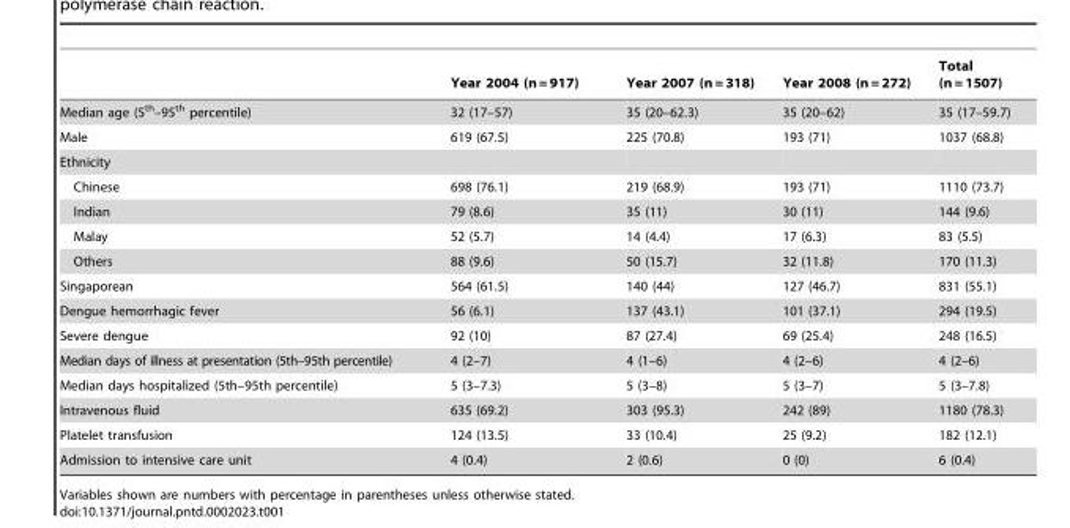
<table><thead><tr><td></td><td>Year 2004 (n = 917)</td><td>Year 2007 (n = 318)</td><td>Year 2008 (n = 272)</td><td>Total (n = 1507)</td></tr></thead><tbody><tr><td>Median age (5<sup>th</sup>–95<sup>th</sup> percentile)</td><td>32 (17–57)</td><td>35 (20–62.3)</td><td>35 (20–62)</td><td>35 (17–59.7)</td></tr><tr><td>Male</td><td>619 (67.5)</td><td>225 (70.8)</td><td>193 (71)</td><td>1037 (68.8)</td></tr><tr><td colspan="5">Ethnicity</td></tr><tr><td>Chinese</td><td>698 (76.1)</td><td>219 (68.9)</td><td>193 (71)</td><td>1110 (73.7)</td></tr><tr><td>Indian</td><td>79 (8.6)</td><td>35 (11)</td><td>30 (11)</td><td>144 (9.6)</td></tr><tr><td>Malay</td><td>52 (5.7)</td><td>14 (4.4)</td><td>17 (6.3)</td><td>83 (5.5)</td></tr><tr><td>Others</td><td>88 (9.6)</td><td>50 (15.7)</td><td>32 (11.8)</td><td>170 (11.3)</td></tr><tr><td>Singaporean</td><td>564 (61.5)</td><td>140 (44)</td><td>127 (46.7)</td><td>831 (55.1)</td></tr><tr><td>Dengue hemorrhagic fever</td><td>56 (6.1)</td><td>137 (43.1)</td><td>101 (37.1)</td><td>294 (19.5)</td></tr><tr><td>Severe dengue</td><td>92 (10)</td><td>87 (27.4)</td><td>69 (25.4)</td><td>248 (16.5)</td></tr><tr><td>Median days of illness at presentation (5th–95th percentile)</td><td>4 (2–7)</td><td>4 (1–6)</td><td>4 (2–6)</td><td>4 (2–6)</td></tr><tr><td>Median days hospitalized (5th–95th percentile)</td><td>5 (3–7.3)</td><td>5 (3–8)</td><td>5 (3–7)</td><td>5 (3–7.8)</td></tr><tr><td>Intravenous fluid</td><td>635 (69.2)</td><td>303 (95.3)</td><td>242 (89)</td><td>1180 (78.3)</td></tr><tr><td>Platelet transfusion</td><td>124 (13.5)</td><td>33 (10.4)</td><td>25 (9.2)</td><td>182 (12.1)</td></tr><tr><td>Admission to intensive care unit</td><td>4 (0.4)</td><td>2 (0.6)</td><td>0 (0)</td><td>6 (0.4)</td></tr></tbody></table>